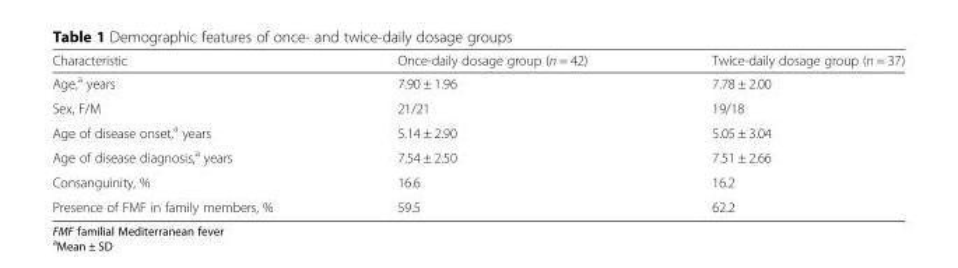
<table><thead><tr><td>Characteristic</td><td>Once-daily dosage group (n = 42)</td><td>Twice-daily dosage group (n = 37)</td></tr></thead><tbody><tr><td>Age,<sup>a</sup> years</td><td>7.90 ± 1.96</td><td>7.78 ± 2.00</td></tr><tr><td>Sex, F/M</td><td>21/21</td><td>19/18</td></tr><tr><td>Age of disease onset,<sup>a</sup> years</td><td>5.14 ± 2.90</td><td>5.05 ± 3.04</td></tr><tr><td>Age of disease diagnosis,<sup>a</sup> years</td><td>7.54 ± 2.50</td><td>7.51 ± 2.66</td></tr><tr><td>Consanguinity, %</td><td>16.6</td><td>16.2</td></tr><tr><td>Presence of FMF in family members, %</td><td>59.5</td><td>62.2</td></tr></tbody></table>